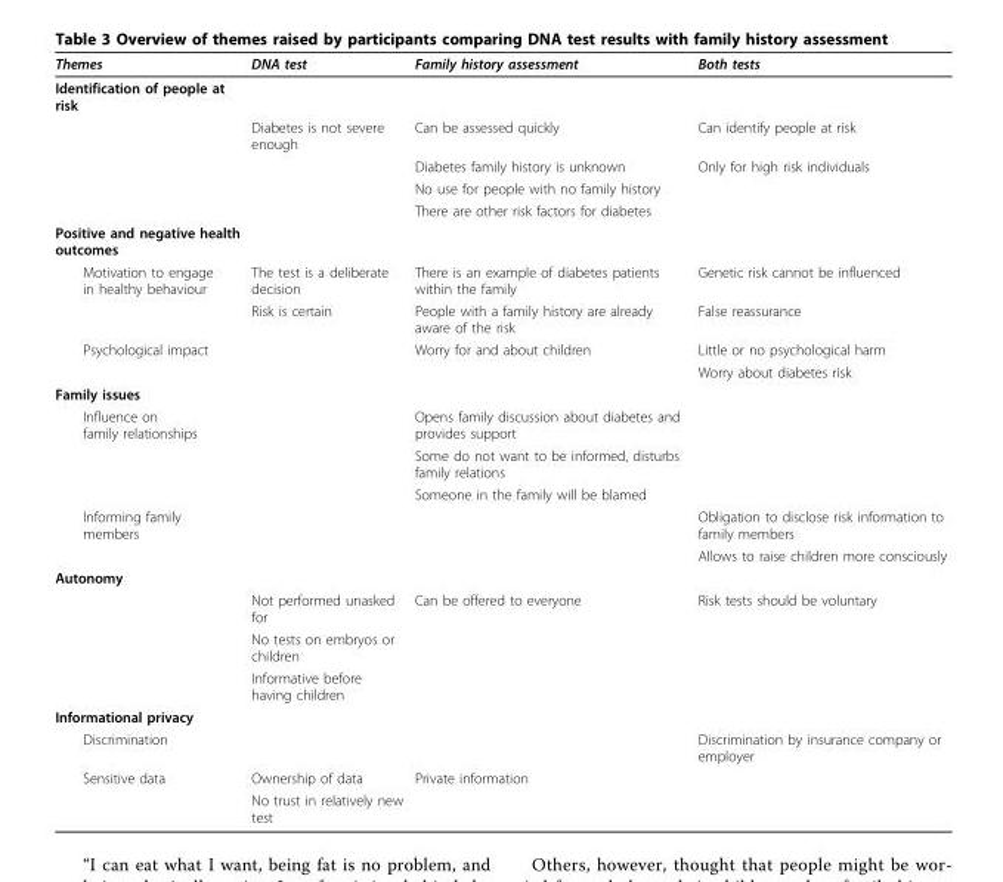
<table><thead><tr><td>Themes</td><td>DNA test</td><td>Family history assessment</td><td>Both tests</td></tr></thead><tbody><tr><td colspan="4">Identification of people at risk</td></tr><tr><td></td><td>Diabetes is not severe enough</td><td>Can be assessed quickly</td><td>Can identify people at risk</td></tr><tr><td></td><td></td><td>Diabetes family history is unknown</td><td>Only for high risk individuals</td></tr><tr><td></td><td></td><td>No use for people with no family history</td><td></td></tr><tr><td></td><td></td><td>There are other risk factors for diabetes</td><td></td></tr><tr><td colspan="4">Positive and negative health outcomes</td></tr><tr><td rowspan="2">Motivation to engage in healthy behaviour</td><td>The test is a deliberate decision</td><td>There is an example of diabetes patients within the family</td><td>Genetic risk cannot be influenced</td></tr><tr><td>Risk is certain</td><td>People with a family history are already aware of the risk</td><td>False reassurance</td></tr><tr><td rowspan="2">Psychological impact</td><td></td><td>Worry for and about children</td><td>Little or no psychological harm</td></tr><tr><td></td><td></td><td>Worry about diabetes risk</td></tr><tr><td colspan="4">Family issues</td></tr><tr><td rowspan="3">Influence on family relationships</td><td></td><td>Opens family discussion about diabetes and provides support</td><td></td></tr><tr><td></td><td>Some do not want to be informed, disturbs family relations</td><td></td></tr><tr><td></td><td>Someone in the family will be blamed</td><td></td></tr><tr><td rowspan="2">Informing family members</td><td></td><td></td><td>Obligation to disclose risk information to family members</td></tr><tr><td></td><td></td><td>Allows to raise children more consciously</td></tr><tr><td colspan="4">Autonomy</td></tr><tr><td></td><td>Not performed unasked for</td><td>Can be offered to everyone</td><td>Risk tests should be voluntary</td></tr><tr><td></td><td>No tests on embryos or children</td><td></td><td></td></tr><tr><td></td><td>Informative before having children</td><td></td><td></td></tr><tr><td colspan="4">Informational privacy</td></tr><tr><td>Discrimination</td><td></td><td></td><td>Discrimination by insurance company or employer</td></tr><tr><td rowspan="2">Sensitive data</td><td>Ownership of data</td><td>Private information</td><td></td></tr><tr><td>No trust in relatively new test</td><td></td><td></td></tr></tbody></table>